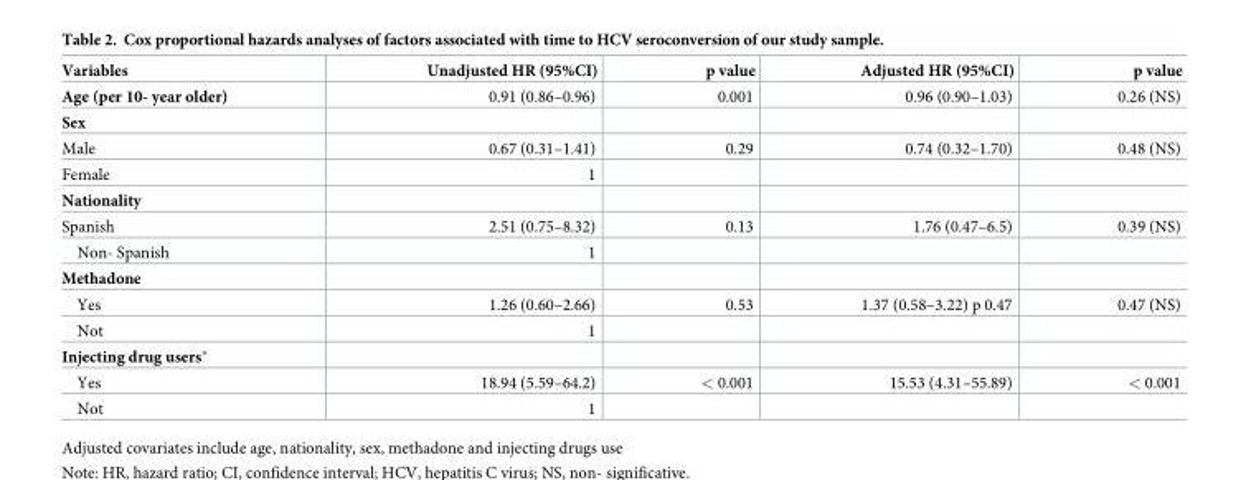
<table><thead><tr><td>Variables</td><td>Unadjusted HR (95%CI)</td><td>p value</td><td>Adjusted HR (95%CI)</td><td>p value</td></tr></thead><tbody><tr><td>Age (per 10- year older)</td><td>0.91 (0.86–0.96)</td><td>0.001</td><td>0.96 (0.90–1.03)</td><td>0.26 (NS)</td></tr><tr><td colspan="5">Sex</td></tr><tr><td>Male</td><td>0.67 (0.31–1.41)</td><td>0.29</td><td>0.74 (0.32–1.70)</td><td>0.48 (NS)</td></tr><tr><td>Female</td><td>1</td><td></td><td></td><td></td></tr><tr><td colspan="5">Nationality</td></tr><tr><td>Spanish</td><td>2.51 (0.75–8.32)</td><td>0.13</td><td>1.76 (0.47–6.5)</td><td>0.39 (NS)</td></tr><tr><td>Non- Spanish</td><td>1</td><td></td><td></td><td></td></tr><tr><td colspan="5">Methadone</td></tr><tr><td>Yes</td><td>1.26 (0.60–2.66)</td><td>0.53</td><td>1.37 (0.58–3.22) p 0.47</td><td>0.47 (NS)</td></tr><tr><td>Not</td><td>1</td><td></td><td></td><td></td></tr><tr><td colspan="5">Injecting drug users*</td></tr><tr><td>Yes</td><td>18.94 (5.59–64.2)</td><td>&lt; 0.001</td><td>15.53 (4.31–55.89)</td><td>&lt; 0.001</td></tr><tr><td>Not</td><td>1</td><td></td><td></td><td></td></tr></tbody></table>